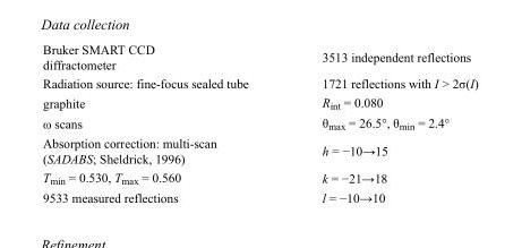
<table><tbody><tr><td>Bruker SMART CCD diffractometer</td><td>3513 independent reflections</td></tr><tr><td>Radiation source: fine-focus sealed tube</td><td>1721 reflections with I &gt; 2σ(I)</td></tr><tr><td>graphite</td><td>R<sub>int</sub> = 0.080</td></tr><tr><td>ω scans</td><td>θ<sub>max</sub> = 26.5°, θ<sub>min</sub> = 2.4°</td></tr><tr><td>Absorption correction: multi-scan (SADABS; Sheldrick, 1996)</td><td>h = −10→15</td></tr><tr><td>T<sub>min</sub> = 0.530, T<sub>max</sub> = 0.560</td><td>k = −21→18</td></tr><tr><td>9533 measured reflections</td><td>l = −10→10</td></tr></tbody></table>